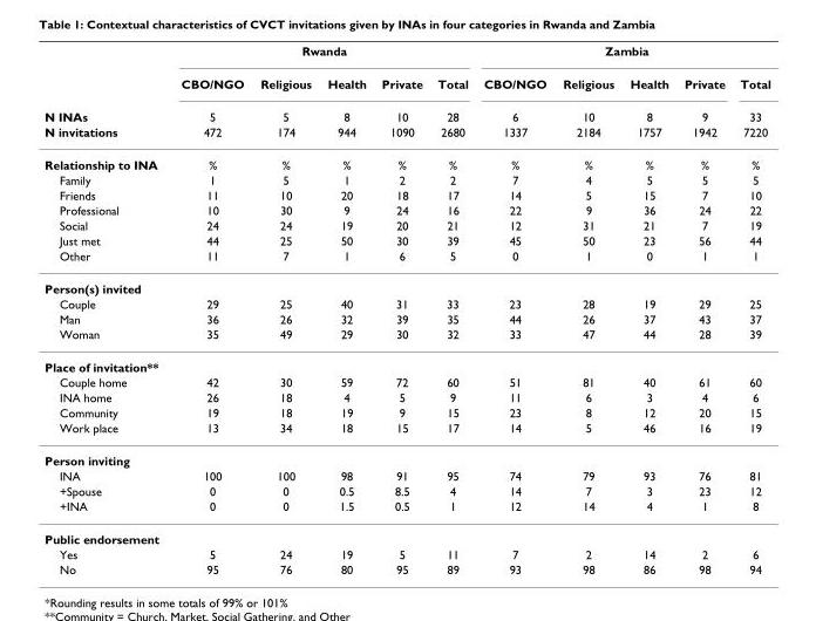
<table><thead><tr><td rowspan="4">N INAs N invitations</td><td colspan="5">Rwanda</td><td colspan="5">Zambia</td></tr><tr><td rowspan="3">CBO/NGO 5 472</td><td rowspan="3">Religious 5 174</td><td rowspan="3">Health 8 944</td><td rowspan="3">Private 10 1090</td><td rowspan="3">Total 28 2680</td><td rowspan="3">CBO/NGO 6 1337</td><td rowspan="3">Religious 10 2184</td><td rowspan="3">Health 8 1757</td><td rowspan="3">Private 9 1942</td><td rowspan="3">Total 33 7220</td></tr><tr></tr><tr></tr></thead><tbody><tr><td>Relationship to INA</td><td>%</td><td>%</td><td>%</td><td>%</td><td>%</td><td>%</td><td>%</td><td>%</td><td>%</td><td>%</td></tr><tr><td>Family</td><td>1</td><td>5</td><td>1</td><td>2</td><td>2</td><td>7</td><td>4</td><td>5</td><td>5</td><td>5</td></tr><tr><td>Friends</td><td>11</td><td>10</td><td>20</td><td>18</td><td>17</td><td>14</td><td>5</td><td>15</td><td>7</td><td>10</td></tr><tr><td>Professional</td><td>10</td><td>30</td><td>9</td><td>24</td><td>16</td><td>22</td><td>9</td><td>36</td><td>24</td><td>22</td></tr><tr><td>Social</td><td>24</td><td>24</td><td>19</td><td>20</td><td>21</td><td>12</td><td>31</td><td>21</td><td>7</td><td>19</td></tr><tr><td>Just met</td><td>44</td><td>25</td><td>50</td><td>30</td><td>39</td><td>45</td><td>50</td><td>23</td><td>56</td><td>44</td></tr><tr><td>Other</td><td>11</td><td>7</td><td>1</td><td>6</td><td>5</td><td>0</td><td>1</td><td>0</td><td>1</td><td>1</td></tr><tr><td colspan="11">Person(s) invited</td></tr><tr><td>Couple</td><td>29</td><td>25</td><td>40</td><td>31</td><td>33</td><td>23</td><td>28</td><td>19</td><td>29</td><td>25</td></tr><tr><td>Man</td><td>36</td><td>26</td><td>32</td><td>39</td><td>35</td><td>44</td><td>26</td><td>37</td><td>43</td><td>37</td></tr><tr><td>Woman</td><td>35</td><td>49</td><td>29</td><td>30</td><td>32</td><td>33</td><td>47</td><td>44</td><td>28</td><td>39</td></tr><tr><td colspan="11">Place of invitation**</td></tr><tr><td>Couple home</td><td>42</td><td>30</td><td>59</td><td>72</td><td>60</td><td>51</td><td>81</td><td>40</td><td>61</td><td>60</td></tr><tr><td>INA home</td><td>26</td><td>18</td><td>4</td><td>5</td><td>9</td><td>11</td><td>6</td><td>3</td><td>4</td><td>6</td></tr><tr><td>Community</td><td>19</td><td>18</td><td>19</td><td>9</td><td>15</td><td>23</td><td>8</td><td>12</td><td>20</td><td>15</td></tr><tr><td>Work place</td><td>13</td><td>34</td><td>18</td><td>15</td><td>17</td><td>14</td><td>5</td><td>46</td><td>16</td><td>19</td></tr><tr><td colspan="11">Person inviting</td></tr><tr><td>INA</td><td>100</td><td>100</td><td>98</td><td>91</td><td>95</td><td>74</td><td>79</td><td>93</td><td>76</td><td>81</td></tr><tr><td>+Spouse</td><td>0</td><td>0</td><td>0.5</td><td>8.5</td><td>4</td><td>14</td><td>7</td><td>3</td><td>23</td><td>12</td></tr><tr><td>+INA</td><td>0</td><td>0</td><td>1.5</td><td>0.5</td><td>1</td><td>12</td><td>14</td><td>4</td><td>1</td><td>8</td></tr><tr><td colspan="11">Public endorsement</td></tr><tr><td>Yes</td><td>5</td><td>24</td><td>19</td><td>5</td><td>11</td><td>7</td><td>2</td><td>14</td><td>2</td><td>6</td></tr><tr><td>No</td><td>95</td><td>76</td><td>80</td><td>95</td><td>89</td><td>93</td><td>98</td><td>86</td><td>98</td><td>94</td></tr></tbody></table>